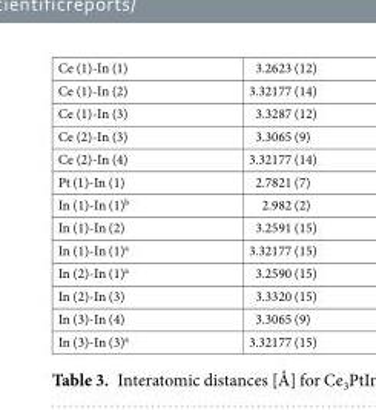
<table><tbody><tr><td>Ce (1)-In (1)</td><td>3.2623 (12)</td></tr><tr><td>Ce (1)-In (2)</td><td>3.32177 (14)</td></tr><tr><td>Ce (1)-In (3)</td><td>3.3287 (12)</td></tr><tr><td>Ce (2)-In (3)</td><td>3.3065 (9)</td></tr><tr><td>Ce (2)-In (4)</td><td>3.32177 (14)</td></tr><tr><td>Pt (1)-In (1)</td><td>2.7821 (7)</td></tr><tr><td>In (1)-In (1)<sup>b</sup></td><td>2.982 (2)</td></tr><tr><td>In (1)-In (2)</td><td>3.2591 (15)</td></tr><tr><td>In (1)-In (1)<sup>a</sup></td><td>3.32177 (15)</td></tr><tr><td>In (2)-In (1)<sup>a</sup></td><td>3.2590 (15)</td></tr><tr><td>In (2)-In (3)</td><td>3.3320 (15)</td></tr><tr><td>In (3)-In (4)</td><td>3.3065 (9)</td></tr><tr><td>In (3)-In (3)<sup>a</sup></td><td>3.32177 (15)</td></tr></tbody></table>